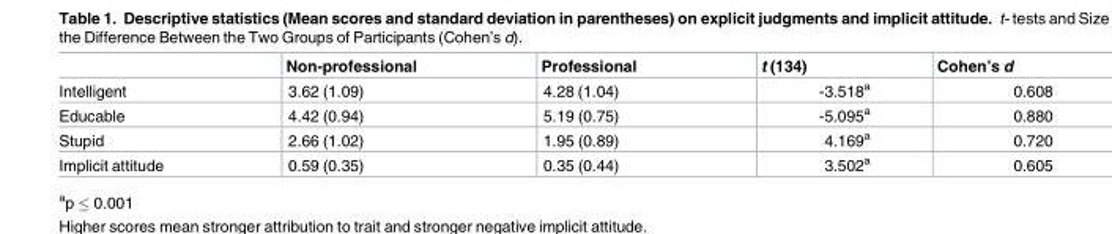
<table><thead><tr><td></td><td>Non-professional</td><td>Professional</td><td>t (134)</td><td>Cohen’s d</td></tr></thead><tbody><tr><td>Intelligent</td><td>3.62 (1.09)</td><td>4.28 (1.04)</td><td>-3.518<sup>a</sup></td><td>0.608</td></tr><tr><td>Educable</td><td>4.42 (0.94)</td><td>5.19 (0.75)</td><td>-5.095<sup>a</sup></td><td>0.880</td></tr><tr><td>Stupid</td><td>2.66 (1.02)</td><td>1.95 (0.89)</td><td>4.169<sup>a</sup></td><td>0.720</td></tr><tr><td>Implicit attitude</td><td>0.59 (0.35)</td><td>0.35 (0.44)</td><td>3.502<sup>a</sup></td><td>0.605</td></tr></tbody></table>